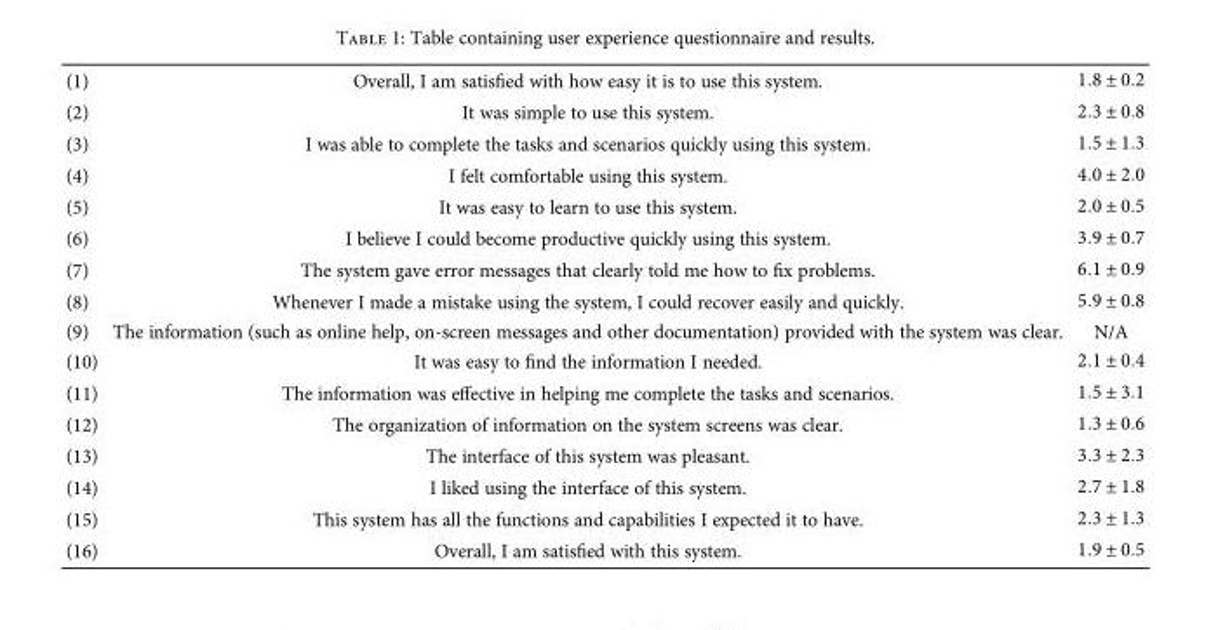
<table><tbody><tr><td>(1)</td><td>Overall, I am satisfied with how easy it is to use this system.</td><td>1 8 ± 0 2</td></tr><tr><td>(2)</td><td>It was simple to use this system.</td><td>2 3 ± 0 8</td></tr><tr><td>(3)</td><td>I was able to complete the tasks and scenarios quickly using this system.</td><td>1 5 ± 1 3</td></tr><tr><td>(4)</td><td>I felt comfortable using this system.</td><td>4 0 ± 2 0</td></tr><tr><td>(5)</td><td>It was easy to learn to use this system.</td><td>2 0 ± 0 5</td></tr><tr><td>(6)</td><td>I believe I could become productive quickly using this system.</td><td>3 9 ± 0 7</td></tr><tr><td>(7)</td><td>The system gave error messages that clearly told me how to fix problems.</td><td>6 1 ± 0 9</td></tr><tr><td>(8)</td><td>Whenever I made a mistake using the system, I could recover easily and quickly.</td><td>5 9 ± 0 8</td></tr><tr><td>(9)</td><td>The information (such as online help, on-screen messages and other documentation) provided with the system was clear.</td><td>N/A</td></tr><tr><td>(10)</td><td>It was easy to find the information I needed.</td><td>2 1 ± 0 4</td></tr><tr><td>(11)</td><td>The information was effective in helping me complete the tasks and scenarios.</td><td>1 5 ± 3 1</td></tr><tr><td>(12)</td><td>The organization of information on the system screens was clear.</td><td>1 3 ± 0 6</td></tr><tr><td>(13)</td><td>The interface of this system was pleasant.</td><td>3 3 ± 2 3</td></tr><tr><td>(14)</td><td>I liked using the interface of this system.</td><td>2 7 ± 1 8</td></tr><tr><td>(15)</td><td>This system has all the functions and capabilities I expected it to have.</td><td>2 3 ± 1 3</td></tr><tr><td>(16)</td><td>Overall, I am satisfied with this system.</td><td>1 9 ± 0 5</td></tr></tbody></table>